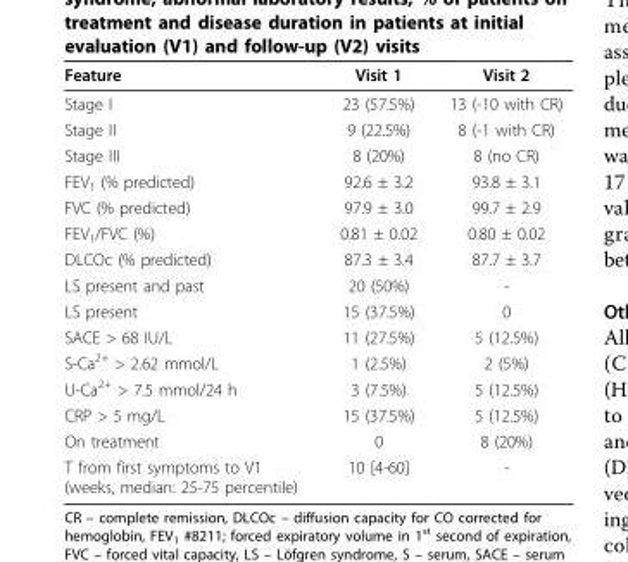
<table><thead><tr><td>Feature</td><td>Visit 1</td><td>Visit 2</td></tr></thead><tbody><tr><td>Stage I</td><td>23 (57.5%)</td><td>13 (-10 with CR)</td></tr><tr><td>Stage II</td><td>9 (22.5%)</td><td>8 (-1 with CR)</td></tr><tr><td>Stage III</td><td>8 (20%)</td><td>8 (no CR)</td></tr><tr><td>FEV<sub>1</sub> (% predicted)</td><td>92.6 ± 3.2</td><td>93.8 ± 3.1</td></tr><tr><td>FVC (% predicted)</td><td>97.9 ± 3.0</td><td>99.7 ± 2.9</td></tr><tr><td>FEV<sub>1</sub>/FVC (%)</td><td>0.81 ± 0.02</td><td>0.80 ± 0.02</td></tr><tr><td>DLCOc (% predicted)</td><td>87.3 ± 3.4</td><td>87.7 ± 3.7</td></tr><tr><td>LS present and past</td><td>20 (50%)</td><td>-</td></tr><tr><td>LS present</td><td>15 (37.5%)</td><td>0</td></tr><tr><td>SACE &gt; 68 IU/L</td><td>11 (27.5%)</td><td>5 (12.5%)</td></tr><tr><td>S-Ca<sup>2+</sup> &gt; 2.62 mmol/L</td><td>1 (2.5%)</td><td>2 (5%)</td></tr><tr><td>U-Ca<sup>2+</sup> &gt; 7.5 mmol/24 h</td><td>3 (7.5%)</td><td>5 (12.5%)</td></tr><tr><td>CRP &gt; 5 mg/L</td><td>15 (37.5%)</td><td>5 (12.5%)</td></tr><tr><td>On treatment</td><td>0</td><td>8 (20%)</td></tr><tr><td>T from first symptoms to V1 (weeks, median: 25-75 percentile)</td><td>10 [4-60]</td><td>-</td></tr></tbody></table>